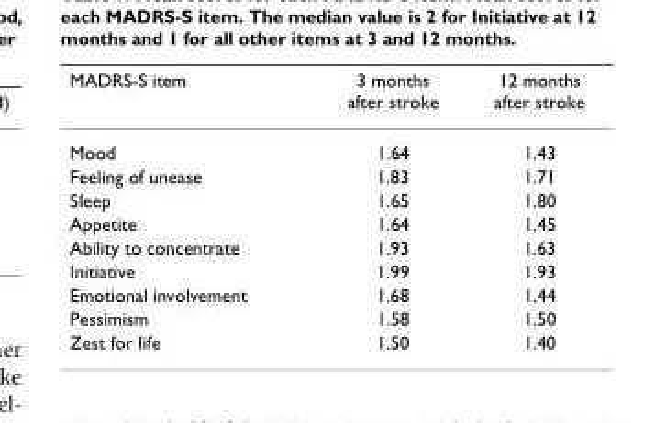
<table><thead><tr><td>MADRS-S item</td><td>3 months after stroke</td><td>12 months after stroke</td></tr></thead><tbody><tr><td>Mood</td><td>1.64</td><td>1.43</td></tr><tr><td>Feeling of unease</td><td>1.83</td><td>1.71</td></tr><tr><td>Sleep</td><td>1.65</td><td>1.80</td></tr><tr><td>Appetite</td><td>1.64</td><td>1.45</td></tr><tr><td>Ability to concentrate</td><td>1.93</td><td>1.63</td></tr><tr><td>Initiative</td><td>1.99</td><td>1.93</td></tr><tr><td>Emotional involvement</td><td>1.68</td><td>1.44</td></tr><tr><td>Pessimism</td><td>1.58</td><td>1.50</td></tr><tr><td>Zest for life</td><td>1.50</td><td>1.40</td></tr></tbody></table>